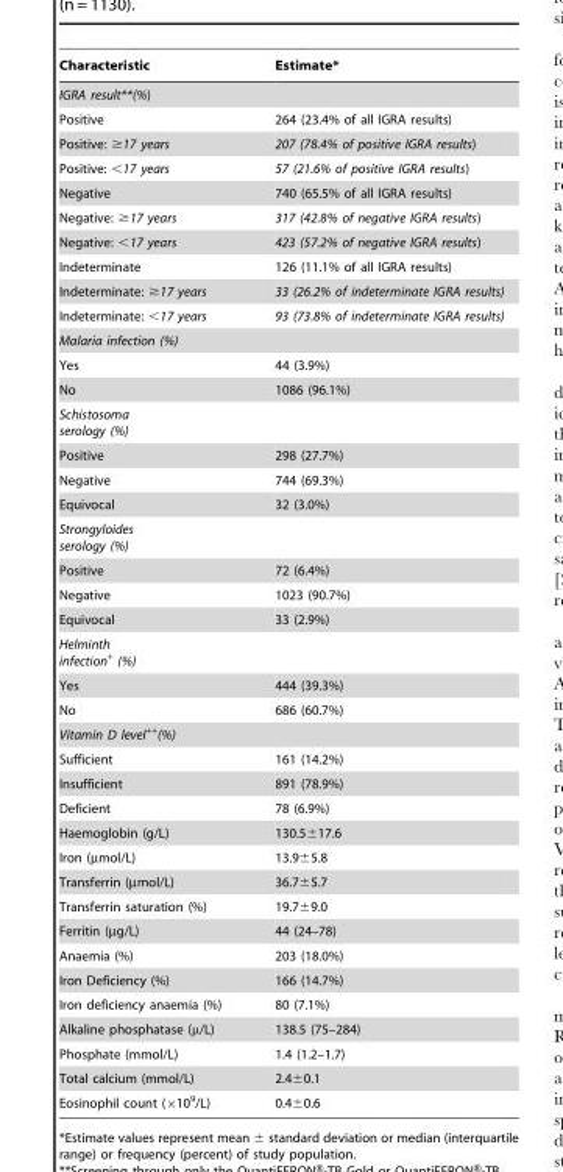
<table><thead><tr><td>Characteristic</td><td>Estimate*</td></tr></thead><tbody><tr><td colspan="2">IGRA result**(%)</td></tr><tr><td>Positive</td><td>264 (23.4% of all IGRA results)</td></tr><tr><td>Positive: ≥17 years</td><td>207 (78.4% of positive IGRA results)</td></tr><tr><td>Positive: &lt;17 years</td><td>57 (21.6% of positive IGRA results)</td></tr><tr><td>Negative</td><td>740 (65.5% of all IGRA results)</td></tr><tr><td>Negative: ≥17 years</td><td>317 (42.8% of negative IGRA results)</td></tr><tr><td>Negative: &lt;17 years</td><td>423 (57.2% of negative IGRA results)</td></tr><tr><td>Indeterminate</td><td>126 (11.1% of all IGRA results)</td></tr><tr><td>Indeterminate: ≥17 years</td><td>33 (26.2% of indeterminate IGRA results)</td></tr><tr><td>Indeterminate: &lt;17 years</td><td>93 (73.8% of indeterminate IGRA results)</td></tr><tr><td colspan="2">Malaria infection (%)</td></tr><tr><td>Yes</td><td>44 (3.9%)</td></tr><tr><td>No</td><td>1086 (96.1%)</td></tr><tr><td colspan="2">Schistosoma serology (%)</td></tr><tr><td>Positive</td><td>298 (27.7%)</td></tr><tr><td>Negative</td><td>744 (69.3%)</td></tr><tr><td>Equivocal</td><td>32 (3.0%)</td></tr><tr><td colspan="2">Strongyloides serology (%)</td></tr><tr><td>Positive</td><td>72 (6.4%)</td></tr><tr><td>Negative</td><td>1023 (90.7%)</td></tr><tr><td>Equivocal</td><td>33 (2.9%)</td></tr><tr><td colspan="2">Helminth infection+ (%)</td></tr><tr><td>Yes</td><td>444 (39.3%)</td></tr><tr><td>No</td><td>686 (60.7%)</td></tr><tr><td colspan="2">Vitamin D level++(%)</td></tr><tr><td>Sufficient</td><td>161 (14.2%)</td></tr><tr><td>Insufficient</td><td>891 (78.9%)</td></tr><tr><td>Deficient</td><td>78 (6.9%)</td></tr><tr><td>Haemoglobin (g/L)</td><td>130.5±17.6</td></tr><tr><td>Iron (µmol/L)</td><td>13.9±5.8</td></tr><tr><td>Transferrin (µmol/L)</td><td>36.7±5.7</td></tr><tr><td>Transferrin saturation (%)</td><td>19.7±9.0</td></tr><tr><td>Ferritin (µg/L)</td><td>44 (24–78)</td></tr><tr><td>Anaemia (%)</td><td>203 (18.0%)</td></tr><tr><td>Iron Deficiency (%)</td><td>166 (14.7%)</td></tr><tr><td>Iron deficiency anaemia (%)</td><td>80 (7.1%)</td></tr><tr><td>Alkaline phosphatase (μ/L)</td><td>138.5 (75–284)</td></tr><tr><td>Phosphate (mmol/L)</td><td>1.4 (1.2–1.7)</td></tr><tr><td>Total calcium (mmol/L)</td><td>2.4±0.1</td></tr><tr><td>Eosinophil count (×10<sup>9</sup>/L)</td><td>0.4±0.6</td></tr></tbody></table>